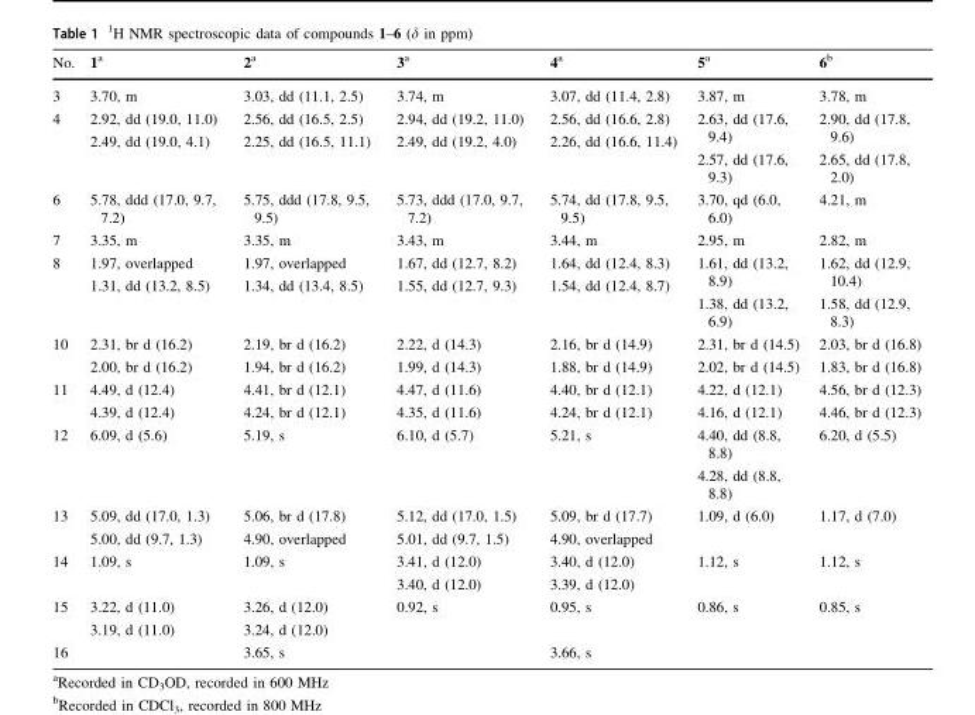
<table><thead><tr><td>No.</td><td>1<sup>a</sup></td><td>2<sup>a</sup></td><td>3<sup>a</sup></td><td>4<sup>a</sup></td><td>5<sup>a</sup></td><td>6<sup>b</sup></td></tr></thead><tbody><tr><td>3</td><td>3.70, m</td><td>3.03, dd (11.1, 2.5)</td><td>3.74, m</td><td>3.07, dd (11.4, 2.8)</td><td>3.87, m</td><td>3.78, m</td></tr><tr><td>4</td><td>2.92, dd (19.0, 11.0) 2.49, dd (19.0, 4.1)</td><td>2.56, dd (16.5, 2.5) 2.25, dd (16.5, 11.1)</td><td>2.94, dd (19.2, 11.0) 2.49, dd (19.2, 4.0)</td><td>2.56, dd (16.6, 2.8) 2.26, dd (16.6, 11.4)</td><td>2.63, dd (17.6, 9.4) 2.57, dd (17.6, 9.3)</td><td>2.90, dd (17.8, 9.6) 2.65, dd (17.8, 2.0)</td></tr><tr><td>6</td><td>5.78, ddd (17.0, 9.7, 7.2)</td><td>5.75, ddd (17.8, 9.5, 9.5)</td><td>5.73, ddd (17.0, 9.7, 7.2)</td><td>5.74, dd (17.8, 9.5, 9.5)</td><td>3.70, qd (6.0, 6.0)</td><td>4.21, m</td></tr><tr><td>7</td><td>3.35, m</td><td>3.35, m</td><td>3.43, m</td><td>3.44, m</td><td>2.95, m</td><td>2.82, m</td></tr><tr><td>8</td><td>1.97, overlapped 1.31, dd (13.2, 8.5)</td><td>1.97, overlapped 1.34, dd (13.4, 8.5)</td><td>1.67, dd (12.7, 8.2) 1.55, dd (12.7, 9.3)</td><td>1.64, dd (12.4, 8.3) 1.54, dd (12.4, 8.7)</td><td>1.61, dd (13.2, 8.9) 1.38, dd (13.2, 6.9)</td><td>1.62, dd (12.9, 10.4) 1.58, dd (12.9, 8.3)</td></tr><tr><td>10</td><td>2.31, br d (16.2) 2.00, br d (16.2)</td><td>2.19, br d (16.2) 1.94, br d (16.2)</td><td>2.22, d (14.3) 1.99, d (14.3)</td><td>2.16, br d (14.9) 1.88, br d (14.9)</td><td>2.31, br d (14.5) 2.02, br d (14.5)</td><td>2.03, br d (16.8) 1.83, br d (16.8)</td></tr><tr><td>11</td><td>4.49, d (12.4) 4.39, d (12.4)</td><td>4.41, br d (12.1) 4.24, br d (12.1)</td><td>4.47, d (11.6) 4.35, d (11.6)</td><td>4.40, br d (12.1) 4.24, br d (12.1)</td><td>4.22, d (12.1) 4.16, d (12.1)</td><td>4.56, br d (12.3) 4.46, br d (12.3)</td></tr><tr><td>12</td><td>6.09, d (5.6)</td><td>5.19, s</td><td>6.10, d (5.7)</td><td>5.21, s</td><td>4.40, dd (8.8, 8.8) 4.28, dd (8.8, 8.8)</td><td>6.20, d (5.5)</td></tr><tr><td>13</td><td>5.09, dd (17.0, 1.3) 5.00, dd (9.7, 1.3)</td><td>5.06, br d (17.8) 4.90, overlapped</td><td>5.12, dd (17.0, 1.5) 5.01, dd (9.7, 1.5)</td><td>5.09, br d (17.7) 4.90, overlapped</td><td>1.09, d (6.0)</td><td>1.17, d (7.0)</td></tr><tr><td>14</td><td>1.09, s</td><td>1.09, s</td><td>3.41, d (12.0) 3.40, d (12.0)</td><td>3.40, d (12.0) 3.39, d (12.0)</td><td>1.12, s</td><td>1.12, s</td></tr><tr><td>15</td><td>3.22, d (11.0) 3.19, d (11.0)</td><td>3.26, d (12.0) 3.24, d (12.0)</td><td>0.92, s</td><td>0.95, s</td><td>0.86, s</td><td>0.85, s</td></tr><tr><td>16</td><td></td><td>3.65, s</td><td></td><td>3.66, s</td><td></td><td></td></tr></tbody></table>